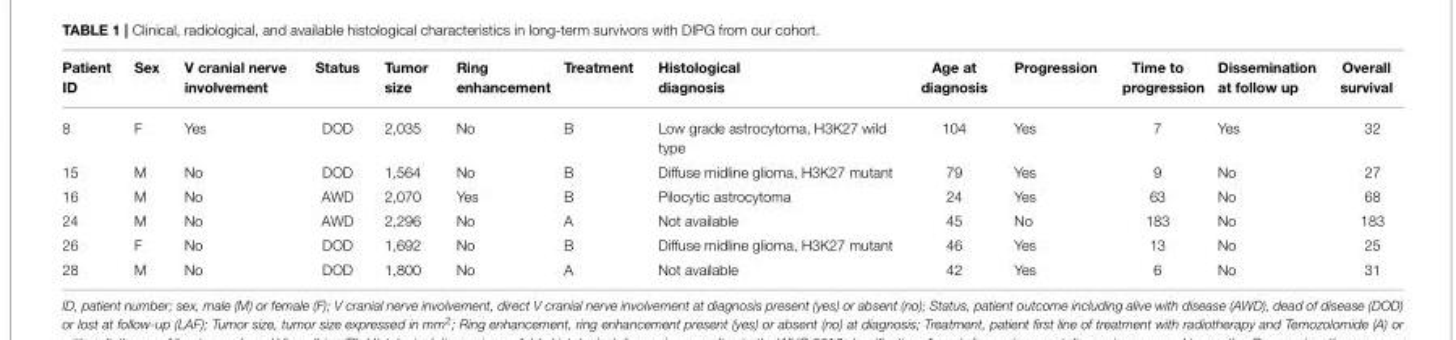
<table><thead><tr><td>Patient ID</td><td>Sex</td><td>V cranial nerve involvement</td><td>Status</td><td>Tumor size</td><td>Ring enhancement</td><td>Treatment</td><td>Histological diagnosis</td><td>Age at diagnosis</td><td>Progression</td><td>Time to progression</td><td>Dissemination at follow up</td><td>Overall survival</td></tr></thead><tbody><tr><td>8</td><td>F</td><td>Yes</td><td>DOD</td><td>2,035</td><td>No</td><td>B</td><td>Low grade astrocytoma, H3K27 wild type</td><td>104</td><td>Yes</td><td>7</td><td>Yes</td><td>32</td></tr><tr><td>15</td><td>M</td><td>No</td><td>DOD</td><td>1,564</td><td>No</td><td>B</td><td>Diffuse midline glioma, H3K27 mutant</td><td>79</td><td>Yes</td><td>9</td><td>No</td><td>27</td></tr><tr><td>16</td><td>M</td><td>No</td><td>AWD</td><td>2,070</td><td>Yes</td><td>B</td><td>Pilocytic astrocytoma</td><td>24</td><td>Yes</td><td>63</td><td>No</td><td>68</td></tr><tr><td>24</td><td>M</td><td>No</td><td>AWD</td><td>2,296</td><td>No</td><td>A</td><td>Not available</td><td>45</td><td>No</td><td>183</td><td>No</td><td>183</td></tr><tr><td>26</td><td>F</td><td>No</td><td>DOD</td><td>1,692</td><td>No</td><td>B</td><td>Diffuse midline glioma, H3K27 mutant</td><td>46</td><td>Yes</td><td>13</td><td>No</td><td>25</td></tr><tr><td>28</td><td>M</td><td>No</td><td>DOD</td><td>1,800</td><td>No</td><td>A</td><td>Not available</td><td>42</td><td>Yes</td><td>6</td><td>No</td><td>31</td></tr></tbody></table>